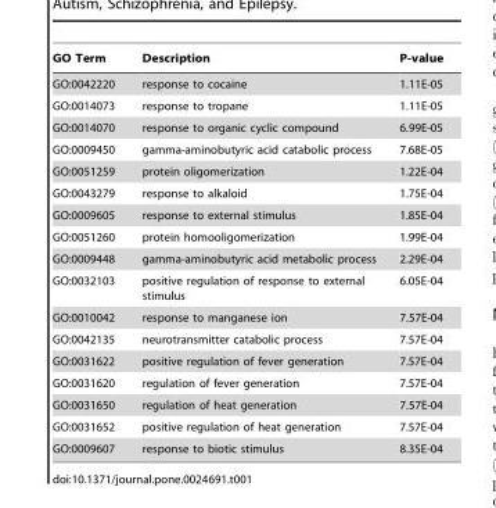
<table><thead><tr><td>GO Term</td><td>Description</td><td>P-value</td></tr></thead><tbody><tr><td>GO:0042220</td><td>response to cocaine</td><td>1.11E-05</td></tr><tr><td>GO:0014073</td><td>response to tropane</td><td>1.11E-05</td></tr><tr><td>GO:0014070</td><td>response to organic cyclic compound</td><td>6.99E-05</td></tr><tr><td>GO:0009450</td><td>gamma-aminobutyric acid catabolic process</td><td>7.68E-05</td></tr><tr><td>GO:0051259</td><td>protein oligomerization</td><td>1.22E-04</td></tr><tr><td>GO:0043279</td><td>response to alkaloid</td><td>1.75E-04</td></tr><tr><td>GO:0009605</td><td>response to external stimulus</td><td>1.85E-04</td></tr><tr><td>GO:0051260</td><td>protein homooligomerization</td><td>1.99E-04</td></tr><tr><td>GO:0009448</td><td>gamma-aminobutyric acid metabolic process</td><td>2.29E-04</td></tr><tr><td>GO:0032103</td><td>positive regulation of response to external stimulus</td><td>6.05E-04</td></tr><tr><td>GO:0010042</td><td>response to manganese ion</td><td>7.57E-04</td></tr><tr><td>GO:0042135</td><td>neurotransmitter catabolic process</td><td>7.57E-04</td></tr><tr><td>GO:0031622</td><td>positive regulation of fever generation</td><td>7.57E-04</td></tr><tr><td>GO:0031620</td><td>regulation of fever generation</td><td>7.57E-04</td></tr><tr><td>GO:0031650</td><td>regulation of heat generation</td><td>7.57E-04</td></tr><tr><td>GO:0031652</td><td>positive regulation of heat generation</td><td>7.57E-04</td></tr><tr><td>GO:0009607</td><td>response to biotic stimulus</td><td>8.35E-04</td></tr></tbody></table>